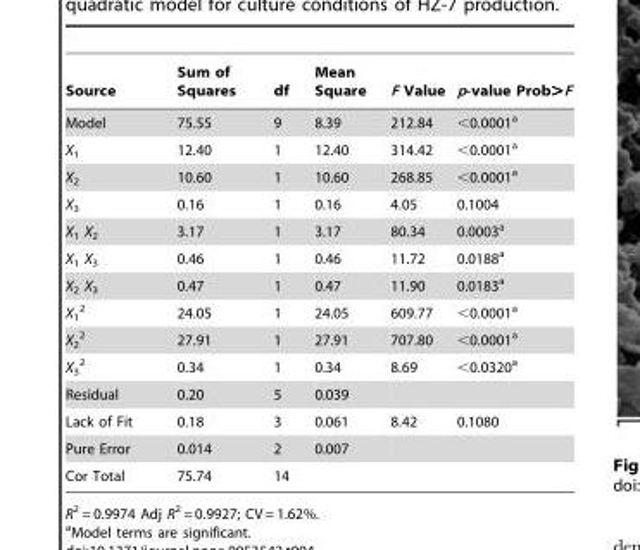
<table><thead><tr><td>Source</td><td>Sum of Squares</td><td>df</td><td>Mean Square</td><td>F Value</td><td>p-value Prob&gt;F</td></tr></thead><tbody><tr><td>Model</td><td>75.55</td><td>9</td><td>8.39</td><td>212.84</td><td>&lt;0.0001<sup>a</sup></td></tr><tr><td>X<sub>1</sub></td><td>12.40</td><td>1</td><td>12.40</td><td>314.42</td><td>&lt;0.0001<sup>a</sup></td></tr><tr><td>X<sub>2</sub></td><td>10.60</td><td>1</td><td>10.60</td><td>268.85</td><td>&lt;0.0001<sup>a</sup></td></tr><tr><td>X<sub>3</sub></td><td>0.16</td><td>1</td><td>0.16</td><td>4.05</td><td>0.1004</td></tr><tr><td>X<sub>1</sub> X<sub>2</sub></td><td>3.17</td><td>1</td><td>3.17</td><td>80.34</td><td>0.0003<sup>a</sup></td></tr><tr><td>X<sub>1</sub> X<sub>3</sub></td><td>0.46</td><td>1</td><td>0.46</td><td>11.72</td><td>0.0188<sup>a</sup></td></tr><tr><td>X<sub>2</sub> X<sub>3</sub></td><td>0.47</td><td>1</td><td>0.47</td><td>11.90</td><td>0.0183<sup>a</sup></td></tr><tr><td>X<sub>1</sub> <sup>2</sup></td><td>24.05</td><td>1</td><td>24.05</td><td>609.77</td><td>&lt;0.0001<sup>a</sup></td></tr><tr><td>X<sub>2</sub> <sup>2</sup></td><td>27.91</td><td>1</td><td>27.91</td><td>707.80</td><td>&lt;0.0001<sup>a</sup></td></tr><tr><td>X<sub>3</sub> <sup>2</sup></td><td>0.34</td><td>1</td><td>0.34</td><td>8.69</td><td>&lt;0.0320<sup>a</sup></td></tr><tr><td>Residual</td><td>0.20</td><td>5</td><td>0.039</td><td></td><td></td></tr><tr><td>Lack of Fit</td><td>0.18</td><td>3</td><td>0.061</td><td>8.42</td><td>0.1080</td></tr><tr><td>Pure Error</td><td>0.014</td><td>2</td><td>0.007</td><td></td><td></td></tr><tr><td>Cor Total</td><td>75.74</td><td>14</td><td></td><td></td><td></td></tr></tbody></table>